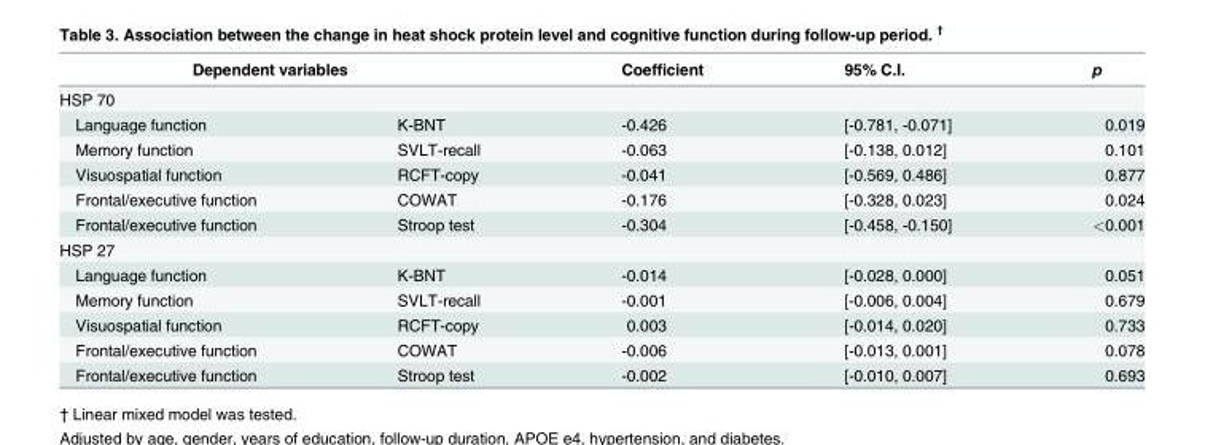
<table><thead><tr><td colspan="2">Dependent variables</td><td>Coefficient</td><td>95% C.I.</td><td>p</td></tr><tr><td colspan="5">HSP 70</td></tr><tr><td>Language function</td><td>K-BNT</td><td>-0.426</td><td>[-0.781, -0.071]</td><td>0.019</td></tr></thead><tbody><tr><td>Memory function</td><td>SVLT-recall</td><td>-0.063</td><td>[-0.138, 0.012]</td><td>0.101</td></tr><tr><td>Visuospatial function</td><td>RCFT-copy</td><td>-0.041</td><td>[-0.569, 0.486]</td><td>0.877</td></tr><tr><td>Frontal/executive function</td><td>COWAT</td><td>-0.176</td><td>[-0.328, 0.023]</td><td>0.024</td></tr><tr><td>Frontal/executive function</td><td>Stroop test</td><td>-0.304</td><td>[-0.458, -0.150]</td><td>&lt;0.001</td></tr><tr><td colspan="5">HSP 27</td></tr><tr><td>Language function</td><td>K-BNT</td><td>-0.014</td><td>[-0.028, 0.000]</td><td>0.051</td></tr><tr><td>Memory function</td><td>SVLT-recall</td><td>-0.001</td><td>[-0.006, 0.004]</td><td>0.679</td></tr><tr><td>Visuospatial function</td><td>RCFT-copy</td><td>0.003</td><td>[-0.014, 0.020]</td><td>0.733</td></tr><tr><td>Frontal/executive function</td><td>COWAT</td><td>-0.006</td><td>[-0.013, 0.001]</td><td>0.078</td></tr><tr><td>Frontal/executive function</td><td>Stroop test</td><td>-0.002</td><td>[-0.010, 0.007]</td><td>0.693</td></tr></tbody></table>